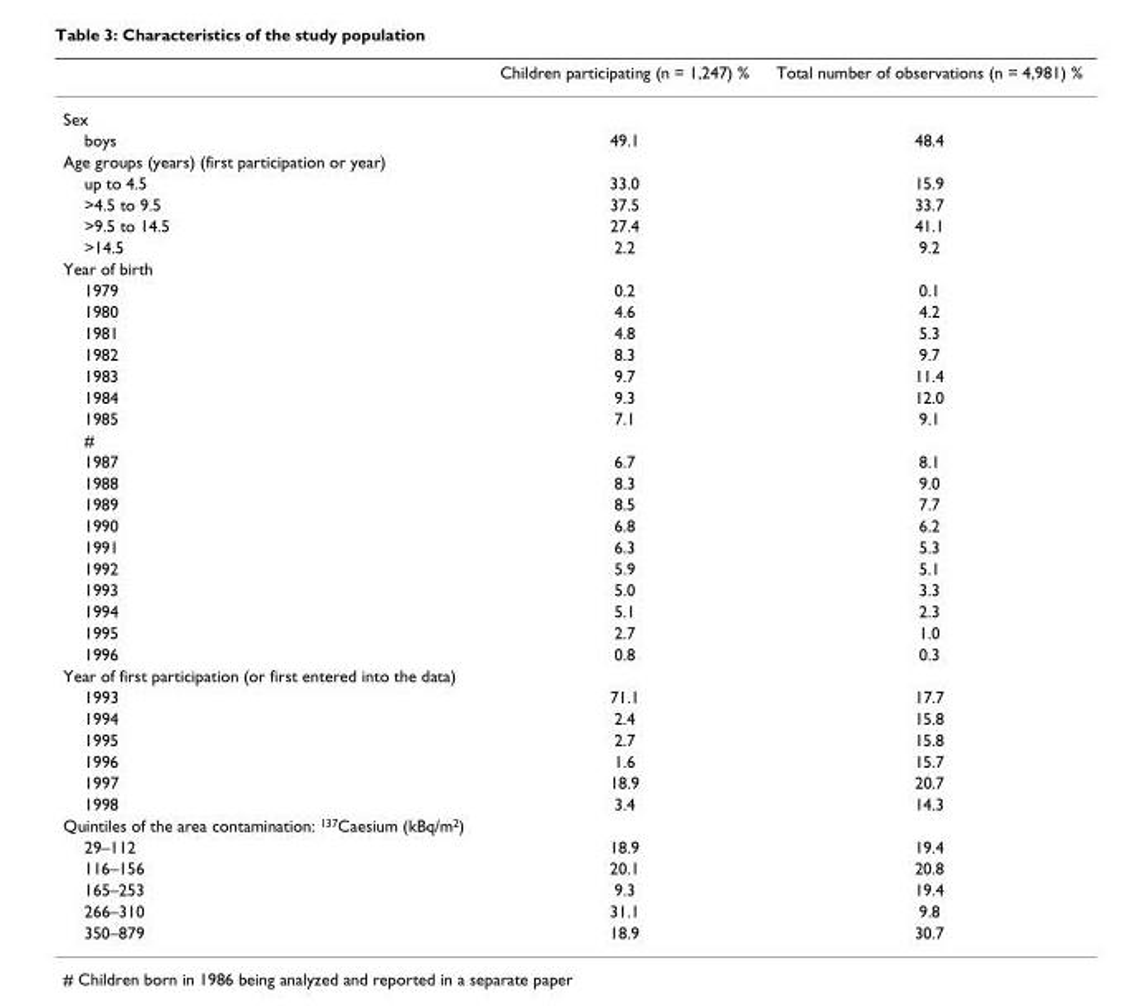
<table><thead><tr><td></td><td>Children participating (n = 1,247) %</td><td>Total number of observations (n = 4,981) %</td></tr></thead><tbody><tr><td colspan="3">Sex</td></tr><tr><td>boys</td><td>49.1</td><td>48.4</td></tr><tr><td colspan="3">Age groups (years) (first participation or year)</td></tr><tr><td>up to 4.5</td><td>33.0</td><td>15.9</td></tr><tr><td>&gt;4.5 to 9.5</td><td>37.5</td><td>33.7</td></tr><tr><td>&gt;9.5 to 14.5</td><td>27.4</td><td>41.1</td></tr><tr><td>&gt;14.5</td><td>2.2</td><td>9.2</td></tr><tr><td colspan="3">Year of birth</td></tr><tr><td>1979</td><td>0.2</td><td>0.1</td></tr><tr><td>1980</td><td>4.6</td><td>4.2</td></tr><tr><td>1981</td><td>4.8</td><td>5.3</td></tr><tr><td>1982</td><td>8.3</td><td>9.7</td></tr><tr><td>1983</td><td>9.7</td><td>11.4</td></tr><tr><td>1984</td><td>9.3</td><td>12.0</td></tr><tr><td>1985</td><td>7.1</td><td>9.1</td></tr><tr><td colspan="3">#</td></tr><tr><td>1987</td><td>6.7</td><td>8.1</td></tr><tr><td>1988</td><td>8.3</td><td>9.0</td></tr><tr><td>1989</td><td>8.5</td><td>7.7</td></tr><tr><td>1990</td><td>6.8</td><td>6.2</td></tr><tr><td>1991</td><td>6.3</td><td>5.3</td></tr><tr><td>1992</td><td>5.9</td><td>5.1</td></tr><tr><td>1993</td><td>5.0</td><td>3.3</td></tr><tr><td>1994</td><td>5.1</td><td>2.3</td></tr><tr><td>1995</td><td>2.7</td><td>1.0</td></tr><tr><td>1996</td><td>0.8</td><td>0.3</td></tr><tr><td colspan="3">Year of first participation (or first entered into the data)</td></tr><tr><td>1993</td><td>71.1</td><td>17.7</td></tr><tr><td>1994</td><td>2.4</td><td>15.8</td></tr><tr><td>1995</td><td>2.7</td><td>15.8</td></tr><tr><td>1996</td><td>1.6</td><td>15.7</td></tr><tr><td>1997</td><td>18.9</td><td>20.7</td></tr><tr><td>1998</td><td>3.4</td><td>14.3</td></tr><tr><td colspan="3">Quintiles of the area contamination: <sup>137</sup>Caesium (kBq/m<sup>2</sup>)</td></tr><tr><td>29–112</td><td>18.9</td><td>19.4</td></tr><tr><td>116–156</td><td>20.1</td><td>20.8</td></tr><tr><td>165–253</td><td>9.3</td><td>19.4</td></tr><tr><td>266–310</td><td>31.1</td><td>9.8</td></tr><tr><td>350–879</td><td>18.9</td><td>30.7</td></tr></tbody></table>